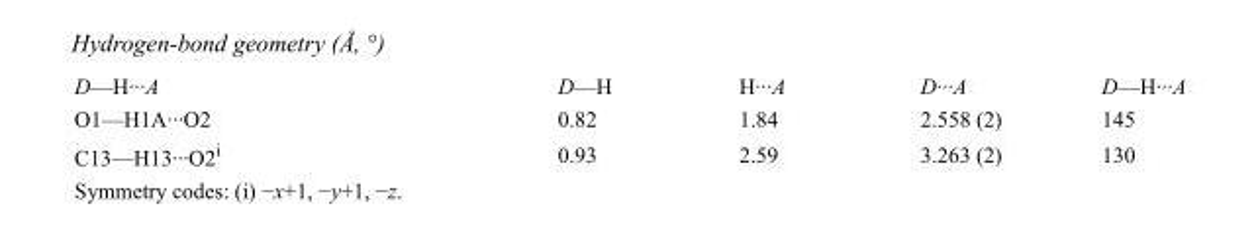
<table><tbody><tr><td>D—H···A</td><td>D—H</td><td>H···A</td><td>D···A</td><td>D—H···A</td></tr><tr><td>O1—H1A···O2</td><td>0.82</td><td>1.84</td><td>2.558 (2)</td><td>145</td></tr><tr><td>C13—H13···O2<sup>i</sup></td><td>0.93</td><td>2.59</td><td>3.263 (2)</td><td>130</td></tr></tbody></table>